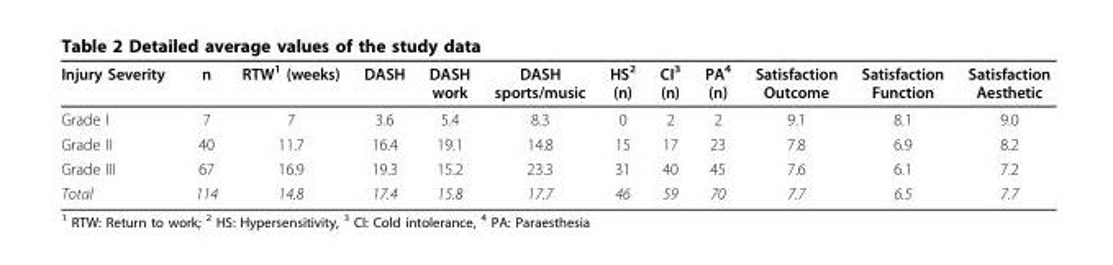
<table><thead><tr><td>Injury Severity</td><td>n</td><td>RTW<sup>1</sup> (weeks)</td><td>DASH</td><td>DASH work</td><td>DASH sports/music</td><td>HS<sup>2</sup> (n)</td><td>CI<sup>3</sup> (n)</td><td>PA<sup>4</sup> (n)</td><td>Satisfaction Outcome</td><td>Satisfaction Function</td><td>Satisfaction Aesthetic</td></tr></thead><tbody><tr><td>Grade I</td><td>7</td><td>7</td><td>3.6</td><td>5.4</td><td>8.3</td><td>0</td><td>2</td><td>2</td><td>9.1</td><td>8.1</td><td>9.0</td></tr><tr><td>Grade II</td><td>40</td><td>11.7</td><td>16.4</td><td>19.1</td><td>14.8</td><td>15</td><td>17</td><td>23</td><td>7.8</td><td>6.9</td><td>8.2</td></tr><tr><td>Grade III</td><td>67</td><td>16.9</td><td>19.3</td><td>15.2</td><td>23.3</td><td>31</td><td>40</td><td>45</td><td>7.6</td><td>6.1</td><td>7.2</td></tr><tr><td>Total</td><td>114</td><td>14.8</td><td>17.4</td><td>15.8</td><td>17.7</td><td>46</td><td>59</td><td>70</td><td>7.7</td><td>6.5</td><td>7.7</td></tr></tbody></table>